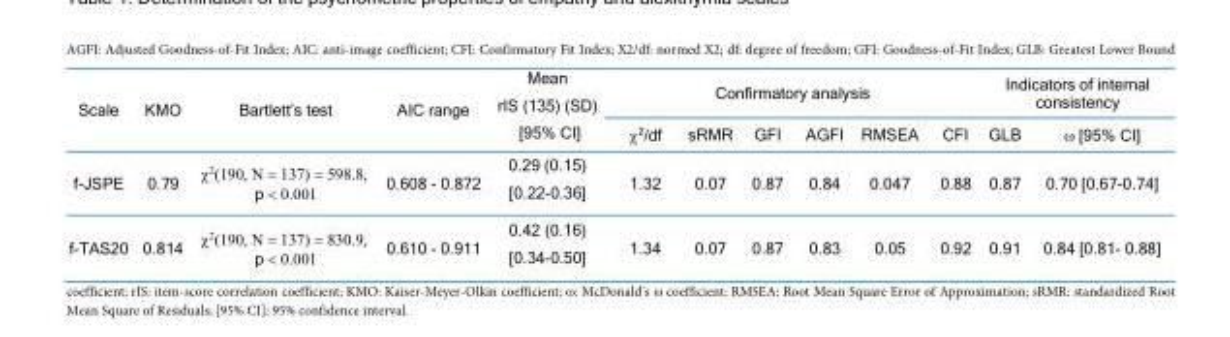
<table><thead><tr><td rowspan="2">Scale</td><td rowspan="2">KMO</td><td rowspan="2">Bartlett’s test</td><td rowspan="2">AIC range</td><td rowspan="2">Mean rIS (135) (SD) [95% CI]</td><td colspan="6">Confirmatory analysis</td><td colspan="2">Indicators of internal consistency</td></tr><tr><td>χ2/df</td><td>sRMR</td><td>GFI</td><td>AGFI</td><td>RMSEA</td><td>CFI</td><td>GLB</td><td>ω [95% CI]</td></tr></thead><tbody><tr><td>f-JSPE</td><td>0.79</td><td>χ2(190, Ν = 137) = 598.8, p &lt; 0.001</td><td>0.608 - 0.872</td><td>0.29 (0.15) [0.22-0.36]</td><td>1.32</td><td>0.07</td><td>0.87</td><td>0.84</td><td>0.047</td><td>0.88</td><td>0.87</td><td>0.70 [0.67-0.74]</td></tr><tr><td>f-TAS20</td><td>0.814</td><td>χ2(190, Ν = 137) = 830.9, p &lt; 0.001</td><td>0.610 - 0.911</td><td>0.42 (0.16) [0.34-0.50]</td><td>1.34</td><td>0.07</td><td>0.87</td><td>0.83</td><td>0.05</td><td>0.92</td><td>0.91</td><td>0.84 [0.81- 0.88]</td></tr></tbody></table>